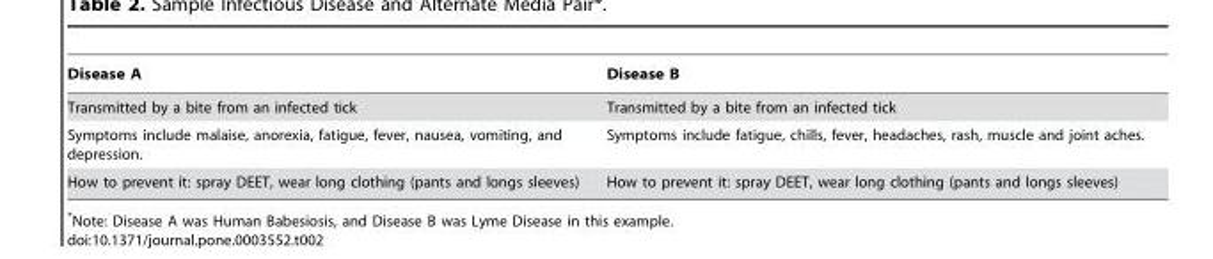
<table><thead><tr><td>Disease A</td><td>Disease B</td></tr></thead><tbody><tr><td>Transmitted by a bite from an infected tick</td><td>Transmitted by a bite from an infected tick</td></tr><tr><td>Symptoms include malaise, anorexia, fatigue, fever, nausea, vomiting, and depression.</td><td>Symptoms include fatigue, chills, fever, headaches, rash, muscle and joint aches.</td></tr><tr><td>How to prevent it: spray DEET, wear long clothing (pants and longs sleeves)</td><td>How to prevent it: spray DEET, wear long clothing (pants and longs sleeves)</td></tr></tbody></table>